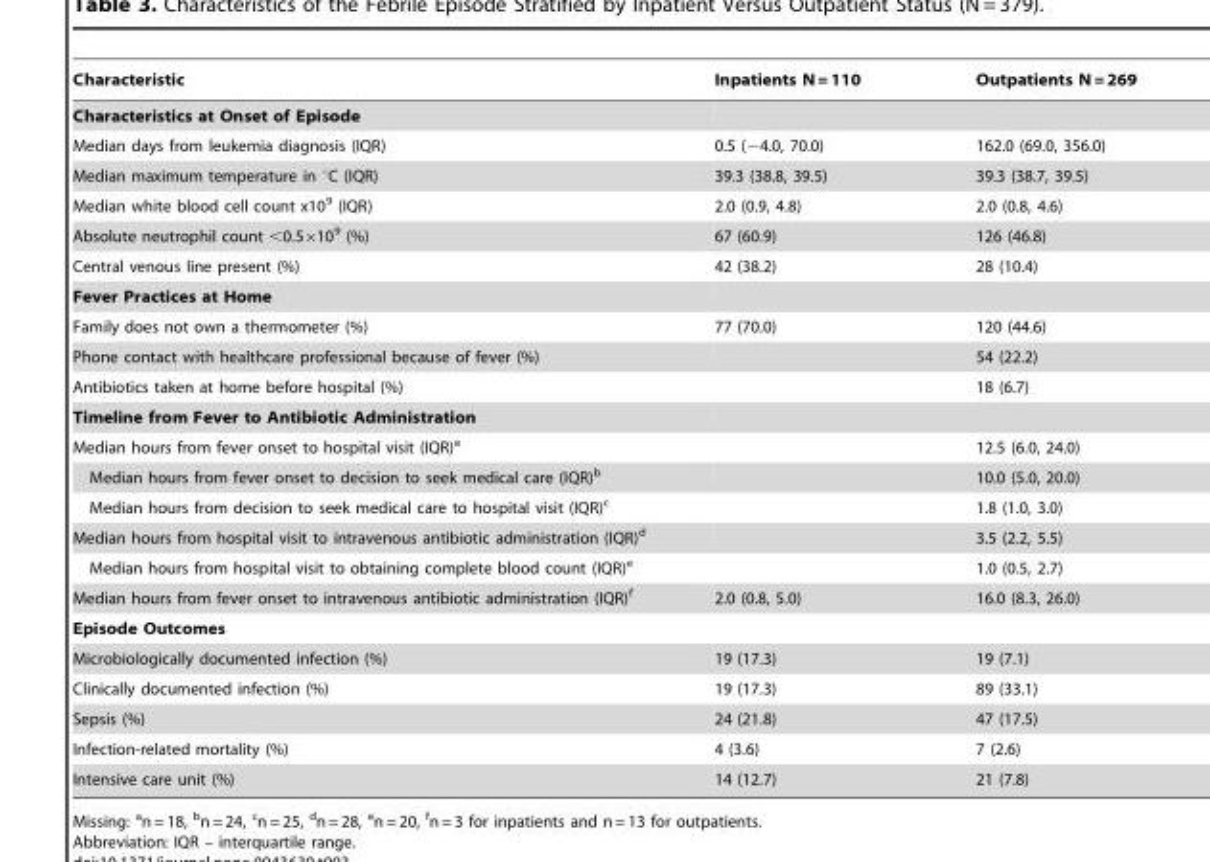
<table><thead><tr><td>Characteristic</td><td>Inpatients N = 110</td><td>Outpatients N = 269</td></tr></thead><tbody><tr><td colspan="3">Characteristics at Onset of Episode</td></tr><tr><td>Median days from leukemia diagnosis (IQR)</td><td>0.5 (−4.0, 70.0)</td><td>162.0 (69.0, 356.0)</td></tr><tr><td>Median maximum temperature in °C (IQR)</td><td>39.3 (38.8, 39.5)</td><td>39.3 (38.7, 39.5)</td></tr><tr><td>Median white blood cell count x10<sup>9</sup> (IQR)</td><td>2.0 (0.9, 4.8)</td><td>2.0 (0.8, 4.6)</td></tr><tr><td>Absolute neutrophil count &lt;0.5×10<sup>9</sup> (%)</td><td>67 (60.9)</td><td>126 (46.8)</td></tr><tr><td>Central venous line present (%)</td><td>42 (38.2)</td><td>28 (10.4)</td></tr><tr><td colspan="3">Fever Practices at Home</td></tr><tr><td>Family does not own a thermometer (%)</td><td>77 (70.0)</td><td>120 (44.6)</td></tr><tr><td>Phone contact with healthcare professional because of fever (%)</td><td></td><td>54 (22.2)</td></tr><tr><td>Antibiotics taken at home before hospital (%)</td><td></td><td>18 (6.7)</td></tr><tr><td colspan="3">Timeline from Fever to Antibiotic Administration</td></tr><tr><td>Median hours from fever onset to hospital visit (IQR)<sup>a</sup></td><td></td><td>12.5 (6.0, 24.0)</td></tr><tr><td>Median hours from fever onset to decision to seek medical care (IQR)<sup>b</sup></td><td></td><td>10.0 (5.0, 20.0)</td></tr><tr><td>Median hours from decision to seek medical care to hospital visit (IQR)<sup>c</sup></td><td></td><td>1.8 (1.0, 3.0)</td></tr><tr><td>Median hours from hospital visit to intravenous antibiotic administration (IQR)<sup>d</sup></td><td></td><td>3.5 (2.2, 5.5)</td></tr><tr><td>Median hours from hospital visit to obtaining complete blood count (IQR)<sup>e</sup></td><td></td><td>1.0 (0.5, 2.7)</td></tr><tr><td>Median hours from fever onset to intravenous antibiotic administration (IQR)<sup>f</sup></td><td>2.0 (0.8, 5.0)</td><td>16.0 (8.3, 26.0)</td></tr><tr><td colspan="3">Episode Outcomes</td></tr><tr><td>Microbiologically documented infection (%)</td><td>19 (17.3)</td><td>19 (7.1)</td></tr><tr><td>Clinically documented infection (%)</td><td>19 (17.3)</td><td>89 (33.1)</td></tr><tr><td>Sepsis (%)</td><td>24 (21.8)</td><td>47 (17.5)</td></tr><tr><td>Infection-related mortality (%)</td><td>4 (3.6)</td><td>7 (2.6)</td></tr><tr><td>Intensive care unit (%)</td><td>14 (12.7)</td><td>21 (7.8)</td></tr></tbody></table>